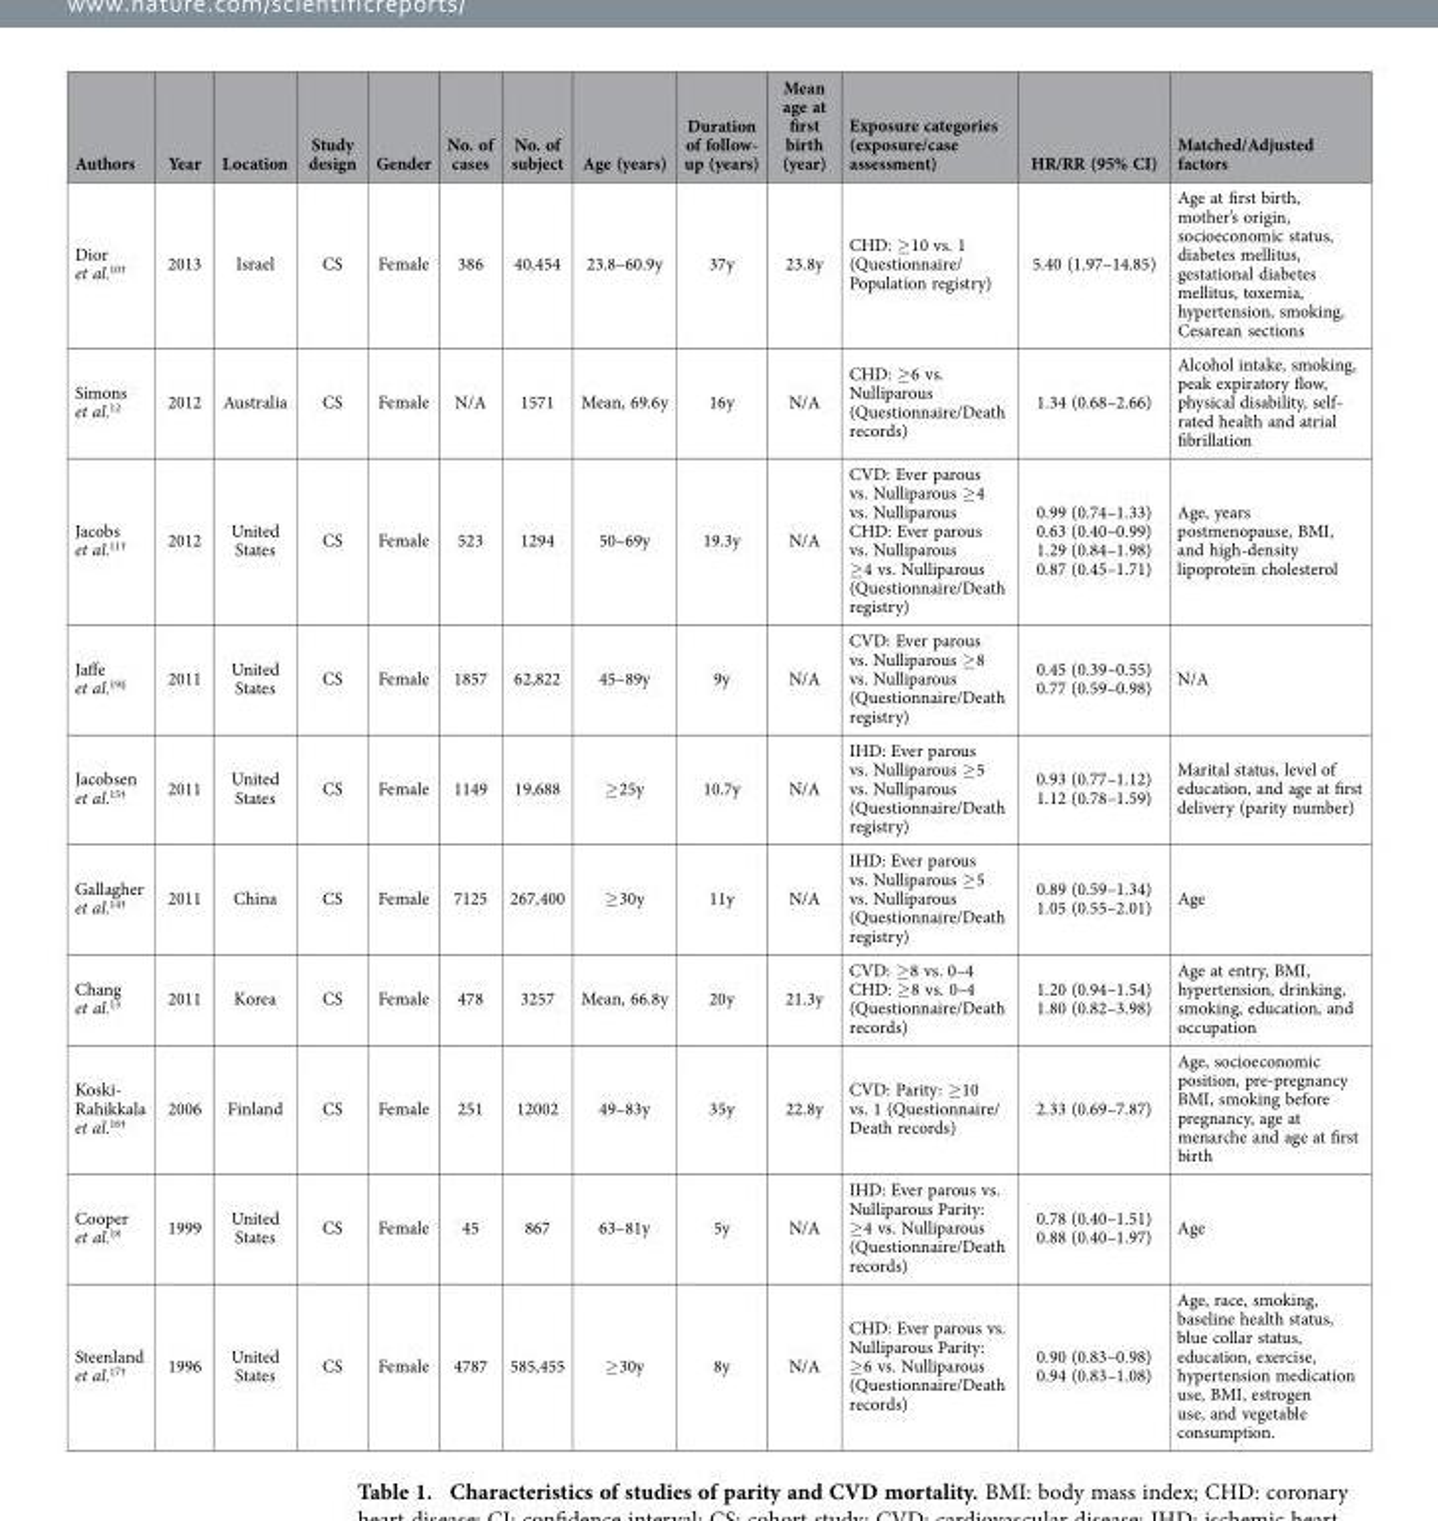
<table><thead><tr><td>Authors</td><td>Year</td><td>Location</td><td>Study design</td><td>Gender</td><td>No. of cases</td><td>No. of subject</td><td>Age (years)</td><td>Duration of follow- up (years)</td><td>Mean age at first birth (year)</td><td>Exposure categories (exposure/case assessment)</td><td>HR/RR (95% CI)</td><td>Matched/Adjusted factors</td></tr></thead><tbody><tr><td>Dior et al.<sup>10</sup>†</td><td>2013</td><td>Israel</td><td>CS</td><td>Female</td><td>386</td><td>40,454</td><td>23.8–60.9y</td><td>37y</td><td>23.8y</td><td>CHD: ≥ 10 vs. 1 (Questionnaire/ Population registry)</td><td>5.40 (1.97–14.85)</td><td>Age at first birth, mother’s origin, socioeconomic status, diabetes mellitus, gestational diabetes mellitus, toxemia, hypertension, smoking, Cesarean sections</td></tr><tr><td>Simons et al.<sup>12</sup></td><td>2012</td><td>Australia</td><td>CS</td><td>Female</td><td>N/A</td><td>1571</td><td>Mean, 69.6y</td><td>16y</td><td>N/A</td><td>CHD: ≥ 6 vs. Nulliparous (Questionnaire/Death records)</td><td>1.34 (0.68–2.66)</td><td>Alcohol intake, smoking, peak expiratory flow, physical disability, self- rated health and atrial fibrillation</td></tr><tr><td>Jacobs et al.<sup>11</sup>†</td><td>2012</td><td>United States</td><td>CS</td><td>Female</td><td>523</td><td>1294</td><td>50–69y</td><td>19.3y</td><td>N/A</td><td>CVD: Ever parous vs. Nulliparous ≥ 4 vs. Nulliparous CHD: Ever parous vs. Nulliparous ≥ 4 vs. Nulliparous (Questionnaire/Death registry)</td><td>0.99 (0.74–1.33) 0.63 (0.40–0.99) 1.29 (0.84–1.98) 0.87 (0.45–1.71)</td><td>Age, years postmenopause, BMI, and high-density lipoprotein cholesterol</td></tr><tr><td>Jaffe et al.<sup>19</sup>§</td><td>2011</td><td>United States</td><td>CS</td><td>Female</td><td>1857</td><td>62,822</td><td>45–89y</td><td>9y</td><td>N/A</td><td>CVD: Ever parous vs. Nulliparous ≥ 8 vs. Nulliparous (Questionnaire/Death registry)</td><td>0.45 (0.39–0.55) 0.77 (0.59–0.98)</td><td>N/A</td></tr><tr><td>Jacobsen et al.<sup>15</sup>†</td><td>2011</td><td>United States</td><td>CS</td><td>Female</td><td>1149</td><td>19,688</td><td>≥ 25y</td><td>10.7y</td><td>N/A</td><td>IHD: Ever parous vs. Nulliparous ≥ 5 vs. Nulliparous (Questionnaire/Death registry)</td><td>0.93 (0.77–1.12) 1.12 (0.78–1.59)</td><td>Marital status, level of education, and age at first delivery (parity number)</td></tr><tr><td>Gallagher et al.<sup>14</sup>†</td><td>2011</td><td>China</td><td>CS</td><td>Female</td><td>7125</td><td>267,400</td><td>≥ 30y</td><td>11y</td><td>N/A</td><td>IHD: Ever parous vs. Nulliparous ≥ 5 vs. Nulliparous (Questionnaire/Death registry)</td><td>0.89 (0.59–1.34) 1.05 (0.55–2.01)</td><td>Age</td></tr><tr><td>Chang et al.<sup>13</sup></td><td>2011</td><td>Korea</td><td>CS</td><td>Female</td><td>478</td><td>3257</td><td>Mean, 66.8y</td><td>20y</td><td>21.3y</td><td>CVD: ≥ 8 vs. 0–4 CHD: ≥ 8 vs. 0–4 (Questionnaire/Death records)</td><td>1.20 (0.94–1.54) 1.80 (0.82–3.98)</td><td>Age at entry, BMI, hypertension, drinking, smoking, education, and occupation</td></tr><tr><td>Koski- Rahikkala et al.<sup>16</sup>†</td><td>2006</td><td>Finland</td><td>CS</td><td>Female</td><td>251</td><td>12002</td><td>49–83y</td><td>35y</td><td>22.8y</td><td>CVD: Parity: ≥ 10 vs. 1 (Questionnaire/ Death records)</td><td>2.33 (0.69–7.87)</td><td>Age, socioeconomic position, pre-pregnancy BMI, smoking before pregnancy, age at menarche and age at first birth</td></tr><tr><td>Cooper et al.<sup>18</sup></td><td>1999</td><td>United States</td><td>CS</td><td>Female</td><td>45</td><td>867</td><td>63–81y</td><td>5y</td><td>N/A</td><td>IHD: Ever parous vs. Nulliparous Parity: ≥ 4 vs. Nulliparous (Questionnaire/Death records)</td><td>0.78 (0.40–1.51) 0.88 (0.40–1.97)</td><td>Age</td></tr><tr><td>Steenland et al.<sup>17</sup>†</td><td>1996</td><td>United States</td><td>CS</td><td>Female</td><td>4787</td><td>585,455</td><td>≥ 30y</td><td>8y</td><td>N/A</td><td>CHD: Ever parous vs. Nulliparous Parity: ≥ 6 vs. Nulliparous (Questionnaire/Death records)</td><td>0.90 (0.83–0.98) 0.94 (0.83–1.08)</td><td>Age, race, smoking, baseline health status, blue collar status, education, exercise, hypertension medication use, BMI, estrogen use, and vegetable consumption.</td></tr></tbody></table>